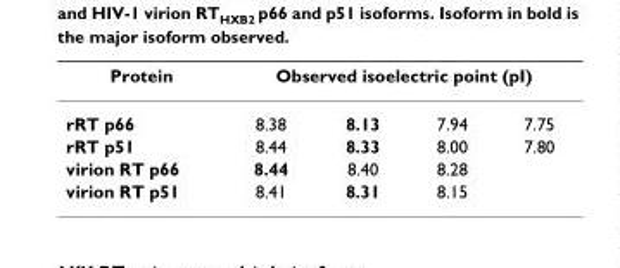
<table><thead><tr><td rowspan="2">Protein rRT p66</td><td colspan="4">Observed isoelectric point (pI)</td></tr><tr><td>8.38</td><td>8.13</td><td>7.94</td><td>7.75</td></tr></thead><tbody><tr><td>rRT p51</td><td>8.44</td><td>8.33</td><td>8.00</td><td>7.80</td></tr><tr><td>virion RT p66</td><td>8.44</td><td>8.40</td><td>8.28</td><td></td></tr><tr><td>virion RT p51</td><td>8.41</td><td>8.31</td><td>8.15</td><td></td></tr></tbody></table>